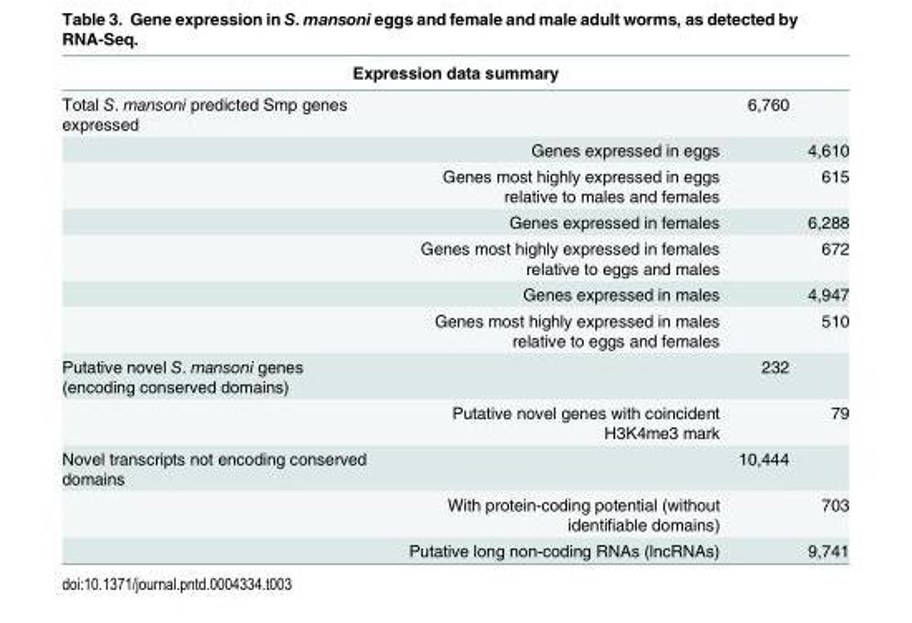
<table><thead><tr><td colspan="4">Expression data summary</td></tr><tr><td>Total S. mansoni predicted Smp genes expressed</td><td></td><td>6,760</td><td></td></tr></thead><tbody><tr><td></td><td>Genes expressed in eggs</td><td></td><td>4,610</td></tr><tr><td></td><td>Genes most highly expressed in eggs relative to males and females</td><td></td><td>615</td></tr><tr><td></td><td>Genes expressed in females</td><td></td><td>6,288</td></tr><tr><td></td><td>Genes most highly expressed in females relative to eggs and males</td><td></td><td>672</td></tr><tr><td></td><td>Genes expressed in males</td><td></td><td>4,947</td></tr><tr><td></td><td>Genes most highly expressed in males relative to eggs and females</td><td></td><td>510</td></tr><tr><td rowspan="2">Putative novel S. mansoni genes (encoding conserved domains)</td><td></td><td>232</td><td></td></tr><tr><td>Putative novel genes with coincident H3K4me3 mark</td><td></td><td>79</td></tr><tr><td rowspan="3">Novel transcripts not encoding conserved domains</td><td></td><td>10,444</td><td></td></tr><tr><td>With protein-coding potential (without identifiable domains)</td><td></td><td>703</td></tr><tr><td>Putative long non-coding RNAs (lncRNAs)</td><td></td><td>9,741</td></tr></tbody></table>